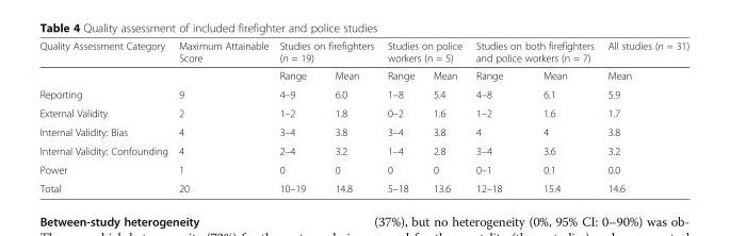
<table><thead><tr><td rowspan="2">Quality Assessment Category</td><td rowspan="2">Maximum Attainable Score</td><td colspan="2">Studies on firefighters (n = 19)</td><td colspan="2">Studies on police workers (n = 5)</td><td colspan="2">Studies on both firefighters and police workers (n = 7)</td><td rowspan="2">All studies (n = 31) Mean</td></tr><tr><td>Range</td><td>Mean</td><td>Range</td><td>Mean</td><td>Range</td><td>Mean</td></tr></thead><tbody><tr><td>Reporting</td><td>9</td><td>4–9</td><td>6.0</td><td>1–8</td><td>5.4</td><td>4–8</td><td>6.1</td><td>5.9</td></tr><tr><td>External Validity</td><td>2</td><td>1–2</td><td>1.8</td><td>0–2</td><td>1.6</td><td>1–2</td><td>1.6</td><td>1.7</td></tr><tr><td>Internal Validity: Bias</td><td>4</td><td>3–4</td><td>3.8</td><td>3–4</td><td>3.8</td><td>4</td><td>4</td><td>3.8</td></tr><tr><td>Internal Validity: Confounding</td><td>4</td><td>2–4</td><td>3.2</td><td>1–4</td><td>2.8</td><td>3–4</td><td>3.6</td><td>3.2</td></tr><tr><td>Power</td><td>1</td><td>0</td><td>0</td><td>0</td><td>0</td><td>0–1</td><td>0.1</td><td>0.0</td></tr><tr><td>Total</td><td>20</td><td>10–19</td><td>14.8</td><td>5–18</td><td>13.6</td><td>12–18</td><td>15.4</td><td>14.6</td></tr></tbody></table>